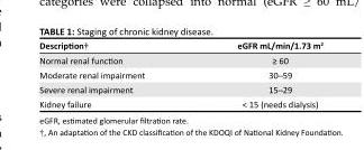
<table><thead><tr><td>Description†</td><td>eGFR mL/min/1.73 m<sup>2</sup></td></tr></thead><tbody><tr><td>Normal renal function</td><td>≥ 60</td></tr><tr><td>Moderate renal impairment</td><td>30─59</td></tr><tr><td>Severe renal impairment</td><td>15─29</td></tr><tr><td>Kidney failure</td><td>&lt; 15 (needs dialysis)</td></tr></tbody></table>